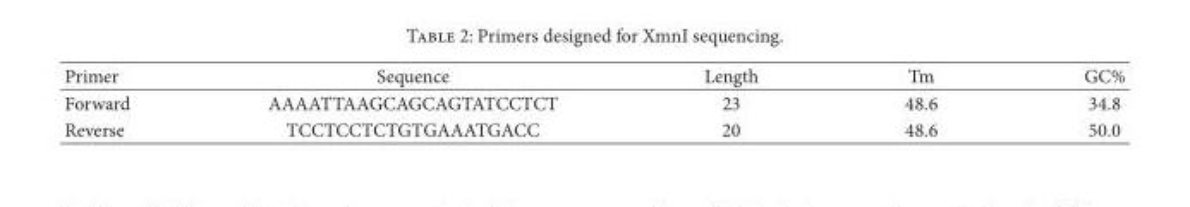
<table><thead><tr><td>Primer</td><td>Sequence</td><td>Length</td><td>Tm</td><td>GC%</td></tr></thead><tbody><tr><td>Forward</td><td>AAAATTAAGCAGCAGTATCCTCT</td><td>23</td><td>48.6</td><td>34.8</td></tr><tr><td>Reverse</td><td>TCCTCCTCTGTGAAATGACC</td><td>20</td><td>48.6</td><td>50.0</td></tr></tbody></table>